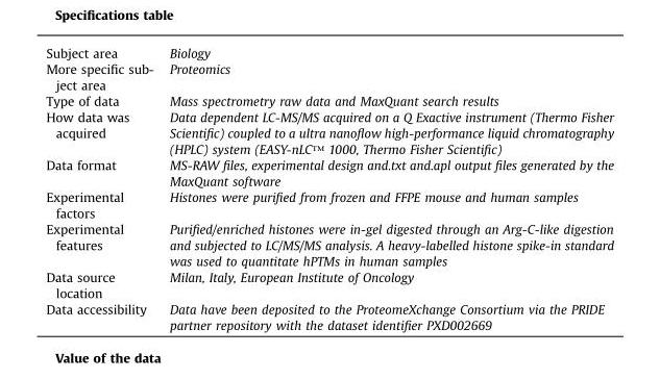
<table><tbody><tr><td>Subject area</td><td>Biology</td></tr><tr><td>More specific sub- ject area</td><td>Proteomics</td></tr><tr><td>Type of data</td><td>Mass spectrometry raw data and MaxQuant search results</td></tr><tr><td>How data was acquired</td><td>Data dependent LC-MS/MS acquired on a Q Exactive instrument (Thermo Fisher Scientific) coupled to a ultra nanoflow high-performance liquid chromatography (HPLC) system (EASY-nLC™ 1000, Thermo Fisher Scientific)</td></tr><tr><td>Data format</td><td>MS-RAW files, experimental design and.txt and.apl output files generated by the MaxQuant software</td></tr><tr><td>Experimental factors</td><td>Histones were purified from frozen and FFPE mouse and human samples</td></tr><tr><td>Experimental features</td><td>Purified/enriched histones were in-gel digested through an Arg-C-like digestion and subjected to LC/MS/MS analysis. A heavy-labelled histone spike-in standard was used to quantitate hPTMs in human samples</td></tr><tr><td>Data source location</td><td>Milan, Italy, European Institute of Oncology</td></tr><tr><td>Data accessibility</td><td>Data have been deposited to the ProteomeXchange Consortium via the PRIDE partner repository with the dataset identifier PXD002669</td></tr></tbody></table>